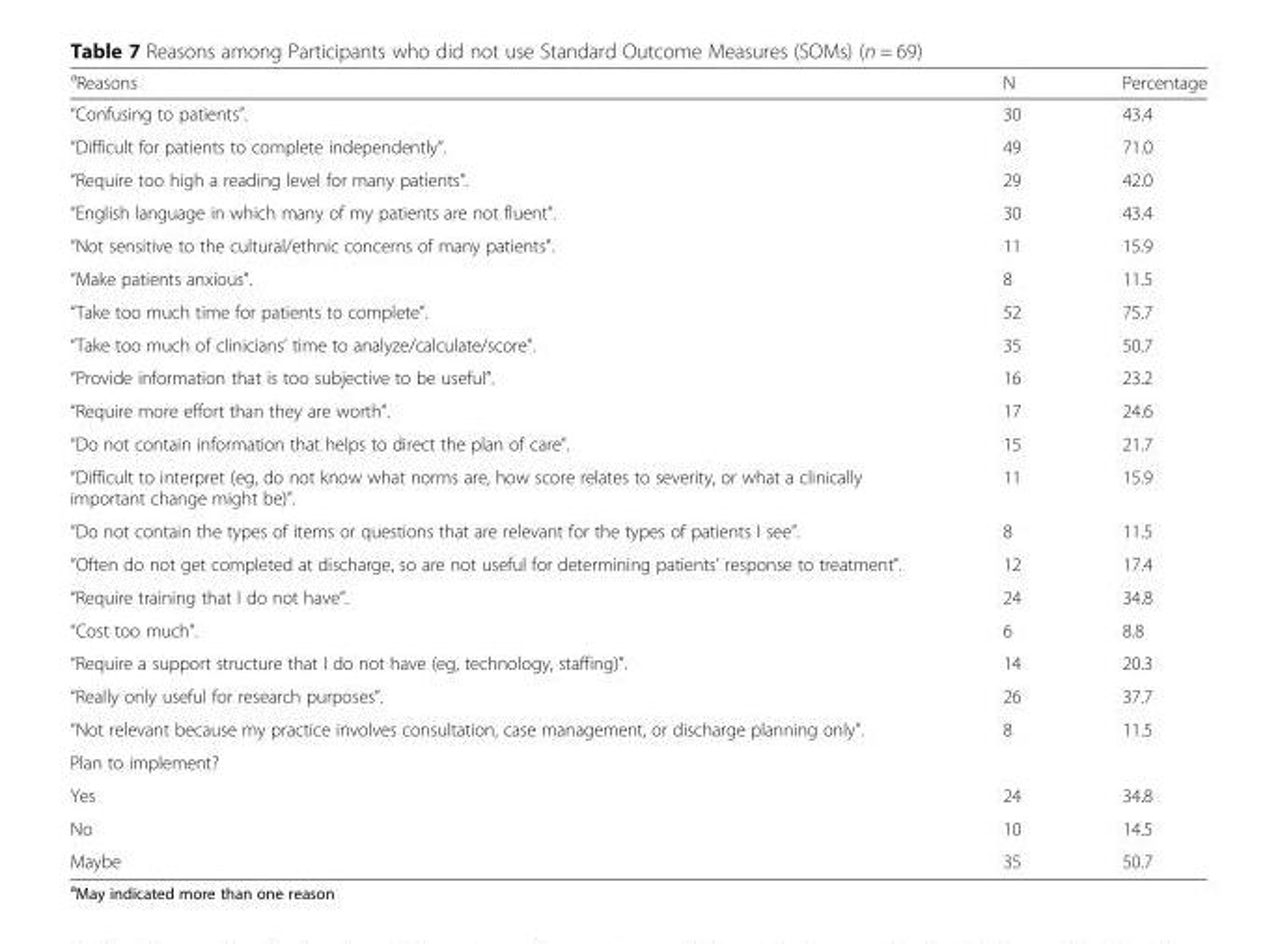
<table><thead><tr><td><sup>a</sup>Reasons</td><td>N</td><td>Percentage</td></tr></thead><tbody><tr><td>“Confusing to patients”.</td><td>30</td><td>43.4</td></tr><tr><td>“Difficult for patients to complete independently”.</td><td>49</td><td>71.0</td></tr><tr><td>“Require too high a reading level for many patients”.</td><td>29</td><td>42.0</td></tr><tr><td>“English language in which many of my patients are not fluent”.</td><td>30</td><td>43.4</td></tr><tr><td>“Not sensitive to the cultural/ethnic concerns of many patients”.</td><td>11</td><td>15.9</td></tr><tr><td>“Make patients anxious”.</td><td>8</td><td>11.5</td></tr><tr><td>“Take too much time for patients to complete”.</td><td>52</td><td>75.7</td></tr><tr><td>“Take too much of clinicians’ time to analyze/calculate/score”.</td><td>35</td><td>50.7</td></tr><tr><td>“Provide information that is too subjective to be useful”.</td><td>16</td><td>23.2</td></tr><tr><td>“Require more effort than they are worth”.</td><td>17</td><td>24.6</td></tr><tr><td>“Do not contain information that helps to direct the plan of care”.</td><td>15</td><td>21.7</td></tr><tr><td>“Difficult to interpret (eg, do not know what norms are, how score relates to severity, or what a clinically important change might be)”.</td><td>11</td><td>15.9</td></tr><tr><td>“Do not contain the types of items or questions that are relevant for the types of patients I see”.</td><td>8</td><td>11.5</td></tr><tr><td>“Often do not get completed at discharge, so are not useful for determining patients’ response to treatment”.</td><td>12</td><td>17.4</td></tr><tr><td>“Require training that I do not have”.</td><td>24</td><td>34.8</td></tr><tr><td>“Cost too much”.</td><td>6</td><td>8.8</td></tr><tr><td>“Require a support structure that I do not have (eg, technology, staffing)”.</td><td>14</td><td>20.3</td></tr><tr><td>“Really only useful for research purposes”.</td><td>26</td><td>37.7</td></tr><tr><td>“Not relevant because my practice involves consultation, case management, or discharge planning only”.</td><td>8</td><td>11.5</td></tr><tr><td colspan="3">Plan to implement?</td></tr><tr><td>Yes</td><td>24</td><td>34.8</td></tr><tr><td>No</td><td>10</td><td>14.5</td></tr><tr><td>Maybe</td><td>35</td><td>50.7</td></tr></tbody></table>